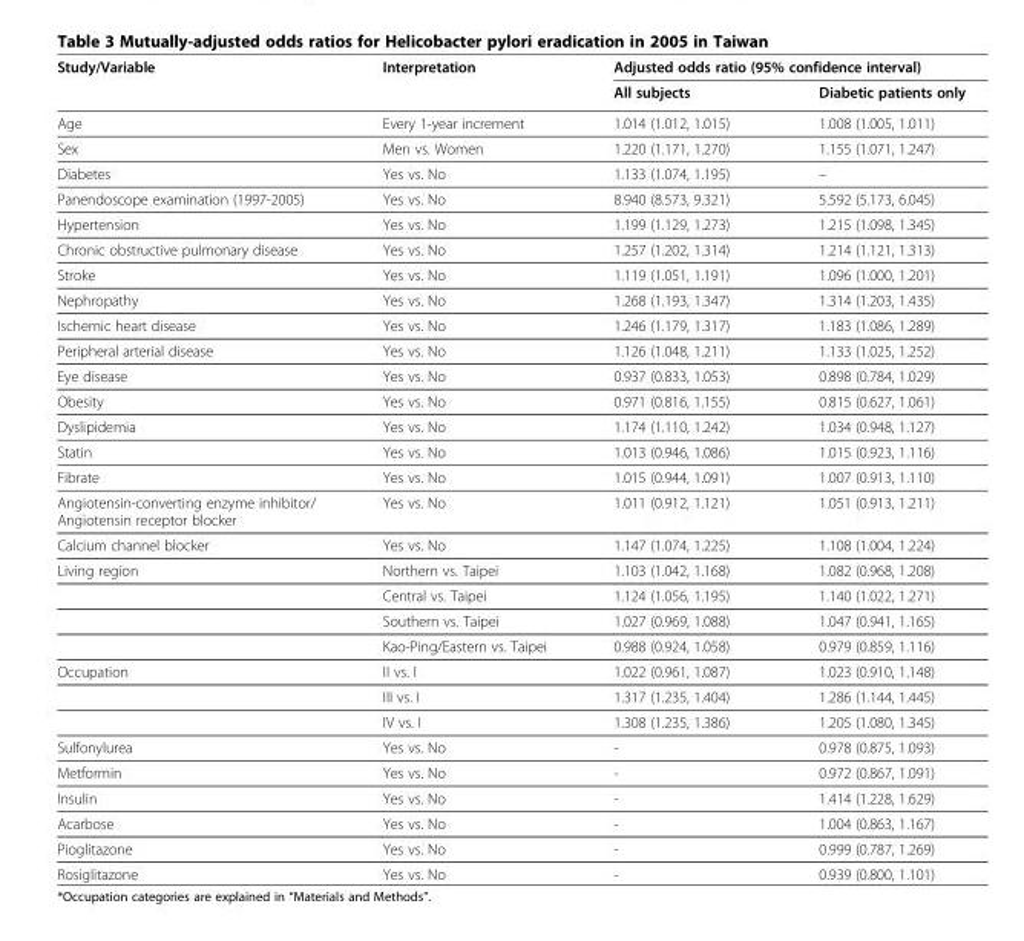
<table><thead><tr><td rowspan="2">Study/Variable</td><td rowspan="2">Interpretation</td><td colspan="2">Adjusted odds ratio (95% confidence interval)</td></tr><tr><td>All subjects</td><td>Diabetic patients only</td></tr></thead><tbody><tr><td>Age</td><td>Every 1-year increment</td><td>1.014 (1.012, 1.015)</td><td>1.008 (1.005, 1.011)</td></tr><tr><td>Sex</td><td>Men vs. Women</td><td>1.220 (1.171, 1.270)</td><td>1.155 (1.071, 1.247)</td></tr><tr><td>Diabetes</td><td>Yes vs. No</td><td>1.133 (1.074, 1.195)</td><td>–</td></tr><tr><td>Panendoscope examination (1997-2005)</td><td>Yes vs. No</td><td>8.940 (8.573, 9.321)</td><td>5.592 (5.173, 6.045)</td></tr><tr><td>Hypertension</td><td>Yes vs. No</td><td>1.199 (1.129, 1.273)</td><td>1.215 (1.098, 1.345)</td></tr><tr><td>Chronic obstructive pulmonary disease</td><td>Yes vs. No</td><td>1.257 (1.202, 1.314)</td><td>1.214 (1.121, 1.313)</td></tr><tr><td>Stroke</td><td>Yes vs. No</td><td>1.119 (1.051, 1.191)</td><td>1.096 (1.000, 1.201)</td></tr><tr><td>Nephropathy</td><td>Yes vs. No</td><td>1.268 (1.193, 1.347)</td><td>1.314 (1.203, 1.435)</td></tr><tr><td>Ischemic heart disease</td><td>Yes vs. No</td><td>1.246 (1.179, 1.317)</td><td>1.183 (1.086, 1.289)</td></tr><tr><td>Peripheral arterial disease</td><td>Yes vs. No</td><td>1.126 (1.048, 1.211)</td><td>1.133 (1.025, 1.252)</td></tr><tr><td>Eye disease</td><td>Yes vs. No</td><td>0.937 (0.833, 1.053)</td><td>0.898 (0.784, 1.029)</td></tr><tr><td>Obesity</td><td>Yes vs. No</td><td>0.971 (0.816, 1.155)</td><td>0.815 (0.627, 1.061)</td></tr><tr><td>Dyslipidemia</td><td>Yes vs. No</td><td>1.174 (1.110, 1.242)</td><td>1.034 (0.948, 1.127)</td></tr><tr><td>Statin</td><td>Yes vs. No</td><td>1.013 (0.946, 1.086)</td><td>1.015 (0.923, 1.116)</td></tr><tr><td>Fibrate</td><td>Yes vs. No</td><td>1.015 (0.944, 1.091)</td><td>1.007 (0.913, 1.110)</td></tr><tr><td>Angiotensin-converting enzyme inhibitor/ Angiotensin receptor blocker</td><td>Yes vs. No</td><td>1.011 (0.912, 1.121)</td><td>1.051 (0.913, 1.211)</td></tr><tr><td>Calcium channel blocker</td><td>Yes vs. No</td><td>1.147 (1.074, 1.225)</td><td>1.108 (1.004, 1.224)</td></tr><tr><td rowspan="4">Living region</td><td>Northern vs. Taipei</td><td>1.103 (1.042, 1.168)</td><td>1.082 (0.968, 1.208)</td></tr><tr><td>Central vs. Taipei</td><td>1.124 (1.056, 1.195)</td><td>1.140 (1.022, 1.271)</td></tr><tr><td>Southern vs. Taipei</td><td>1.027 (0.969, 1.088)</td><td>1.047 (0.941, 1.165)</td></tr><tr><td>Kao-Ping/Eastern vs. Taipei</td><td>0.988 (0.924, 1.058)</td><td>0.979 (0.859, 1.116)</td></tr><tr><td rowspan="3">Occupation</td><td>II vs. I</td><td>1.022 (0.961, 1.087)</td><td>1.023 (0.910, 1.148)</td></tr><tr><td>III vs. I</td><td>1.317 (1.235, 1.404)</td><td>1.286 (1.144, 1.445)</td></tr><tr><td>IV vs. I</td><td>1.308 (1.235, 1.386)</td><td>1.205 (1.080, 1.345)</td></tr><tr><td>Sulfonylurea</td><td>Yes vs. No</td><td>-</td><td>0.978 (0.875, 1.093)</td></tr><tr><td>Metformin</td><td>Yes vs. No</td><td>-</td><td>0.972 (0.867, 1.091)</td></tr><tr><td>Insulin</td><td>Yes vs. No</td><td>-</td><td>1.414 (1.228, 1.629)</td></tr><tr><td>Acarbose</td><td>Yes vs. No</td><td>-</td><td>1.004 (0.863, 1.167)</td></tr><tr><td>Pioglitazone</td><td>Yes vs. No</td><td>-</td><td>0.999 (0.787, 1.269)</td></tr><tr><td>Rosiglitazone</td><td>Yes vs. No</td><td>-</td><td>0.939 (0.800, 1.101)</td></tr></tbody></table>